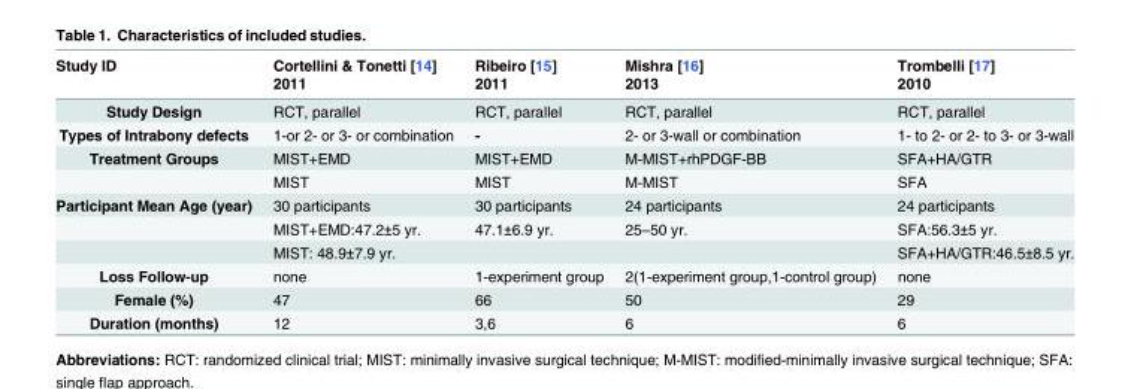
<table><thead><tr><td rowspan="2">Study ID</td><td rowspan="2">Cortellini &amp; Tonetti [14] 2011</td><td rowspan="2">Ribeiro [15] 2011</td><td rowspan="2">Mishra [16] 2013</td><td rowspan="2">Trombelli [17] 2010</td></tr><tr></tr></thead><tbody><tr><td>Study Design</td><td>RCT, parallel</td><td>RCT, parallel</td><td>RCT, parallel</td><td>RCT, parallel</td></tr><tr><td>Types of Intrabony defects</td><td>1-or 2- or 3- or combination</td><td>-</td><td>2- or 3-wall or combination</td><td>1- to 2- or 2- to 3- or 3-wall</td></tr><tr><td rowspan="2">Treatment Groups</td><td>MIST+EMD</td><td>MIST+EMD</td><td>M-MIST+rhPDGF-BB</td><td>SFA+HA/GTR</td></tr><tr><td>MIST</td><td>MIST</td><td>M-MIST</td><td>SFA</td></tr><tr><td rowspan="3">Participant Mean Age (year)</td><td>30 participants</td><td>30 participants</td><td>24 participants</td><td>24 participants</td></tr><tr><td>MIST+EMD:47.2±5 yr.</td><td>47.1±6.9 yr.</td><td>25–50 yr.</td><td>SFA:56.3±5 yr.</td></tr><tr><td>MIST: 48.9±7.9 yr.</td><td></td><td></td><td>SFA+HA/GTR:46.5±8.5 yr.</td></tr><tr><td>Loss Follow-up</td><td>none</td><td>1-experiment group</td><td>2(1-experiment group,1-control group)</td><td>none</td></tr><tr><td>Female (%)</td><td>47</td><td>66</td><td>50</td><td>29</td></tr><tr><td>Duration (months)</td><td>12</td><td>3,6</td><td>6</td><td>6</td></tr></tbody></table>